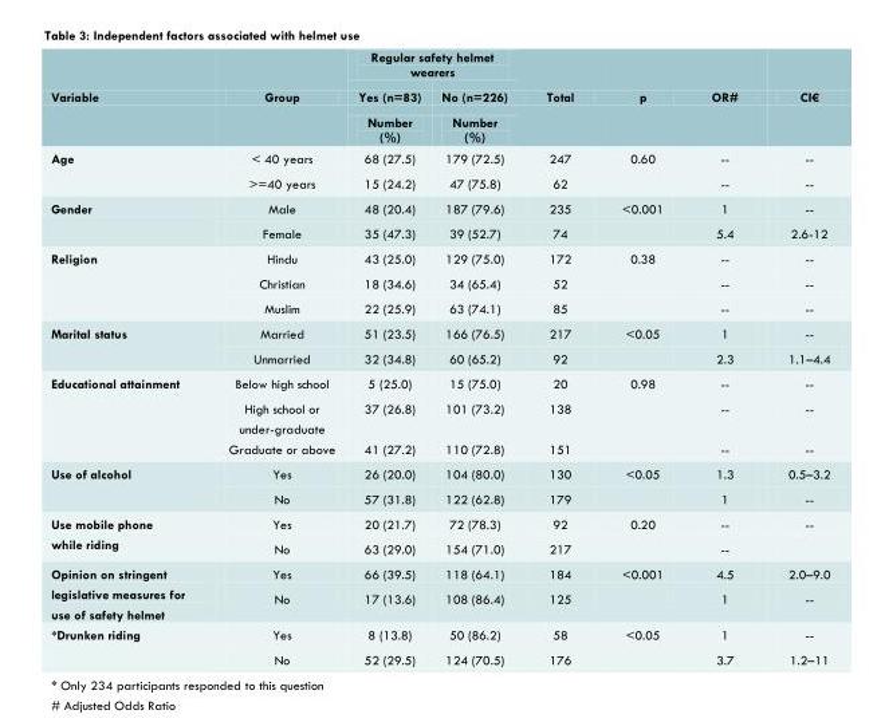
<table><thead><tr><td rowspan="3">Variable</td><td rowspan="3">Group</td><td colspan="2">Regular safety helmet wearers</td><td rowspan="3">Total</td><td rowspan="3">p</td><td rowspan="3">OR#</td><td rowspan="3">CI€</td></tr><tr><td rowspan="2">Yes (n=83) Number (%)</td><td rowspan="2">No (n=226) Number (%)</td></tr><tr></tr></thead><tbody><tr><td rowspan="2">Age</td><td>&lt; 40 years</td><td>68 (27.5)</td><td>179 (72.5)</td><td>247</td><td>0.60</td><td>--</td><td>--</td></tr><tr><td>&gt;=40 years</td><td>15 (24.2)</td><td>47 (75.8)</td><td>62</td><td></td><td>--</td><td>--</td></tr><tr><td rowspan="2">Gender</td><td>Male</td><td>48 (20.4)</td><td>187 (79.6)</td><td>235</td><td>&lt;0.001</td><td>1</td><td>--</td></tr><tr><td>Female</td><td>35 (47.3)</td><td>39 (52.7)</td><td>74</td><td></td><td>5.4</td><td>2.6-12</td></tr><tr><td rowspan="3">Religion</td><td>Hindu</td><td>43 (25.0)</td><td>129 (75.0)</td><td>172</td><td>0.38</td><td>--</td><td>--</td></tr><tr><td>Christian</td><td>18 (34.6)</td><td>34 (65.4)</td><td>52</td><td></td><td>--</td><td>--</td></tr><tr><td>Muslim</td><td>22 (25.9)</td><td>63 (74.1)</td><td>85</td><td></td><td>--</td><td>--</td></tr><tr><td rowspan="2">Marital status</td><td>Married</td><td>51 (23.5)</td><td>166 (76.5)</td><td>217</td><td>&lt;0.05</td><td>1</td><td>--</td></tr><tr><td>Unmarried</td><td>32 (34.8)</td><td>60 (65.2)</td><td>92</td><td></td><td>2.3</td><td>1.1–4.4</td></tr><tr><td rowspan="3">Educational attainment</td><td>Below high school</td><td>5 (25.0)</td><td>15 (75.0)</td><td>20</td><td>0.98</td><td>--</td><td>--</td></tr><tr><td>High school or under-graduate</td><td>37 (26.8)</td><td>101 (73.2)</td><td>138</td><td></td><td>--</td><td>--</td></tr><tr><td>Graduate or above</td><td>41 (27.2)</td><td>110 (72.8)</td><td>151</td><td></td><td>--</td><td>--</td></tr><tr><td rowspan="2">Use of alcohol</td><td>Yes</td><td>26 (20.0)</td><td>104 (80.0)</td><td>130</td><td>&lt;0.05</td><td>1.3</td><td>0.5–3.2</td></tr><tr><td>No</td><td>57 (31.8)</td><td>122 (62.8)</td><td>179</td><td></td><td>1</td><td>--</td></tr><tr><td rowspan="2">Use mobile phone while riding</td><td>Yes</td><td>20 (21.7)</td><td>72 (78.3)</td><td>92</td><td>0.20</td><td>--</td><td>--</td></tr><tr><td>No</td><td>63 (29.0)</td><td>154 (71.0)</td><td>217</td><td></td><td>--</td><td></td></tr><tr><td rowspan="2">Opinion on stringent legislative measures for use of safety helmet</td><td>Yes</td><td>66 (39.5)</td><td>118 (64.1)</td><td>184</td><td>&lt;0.001</td><td>4.5</td><td>2.0–9.0</td></tr><tr><td>No</td><td>17 (13.6)</td><td>108 (86.4)</td><td>125</td><td></td><td>1</td><td>--</td></tr><tr><td rowspan="2">*Drunken riding</td><td>Yes</td><td>8 (13.8)</td><td>50 (86.2)</td><td>58</td><td>&lt;0.05</td><td>1</td><td>--</td></tr><tr><td>No</td><td>52 (29.5)</td><td>124 (70.5)</td><td>176</td><td></td><td>3.7</td><td>1.2–11</td></tr></tbody></table>